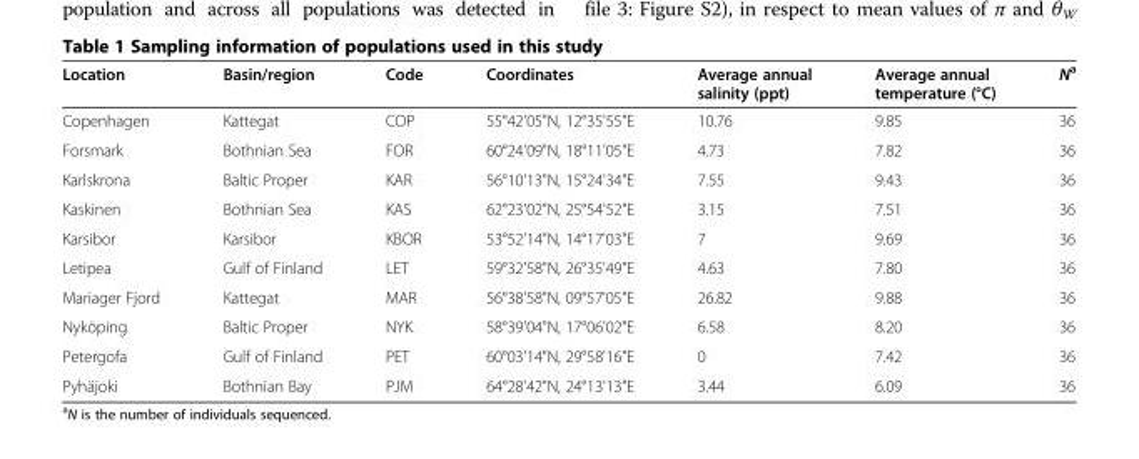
<table><thead><tr><td>Location</td><td>Basin/region</td><td>Code</td><td>Coordinates</td><td>Average annual salinity (ppt)</td><td>Average annual temperature (°C)</td><td>N<sup>a</sup></td></tr></thead><tbody><tr><td>Copenhagen</td><td>Kattegat</td><td>COP</td><td>55°42&#x27;05&quot;N, 12°35&#x27;55&quot;E</td><td>10.76</td><td>9.85</td><td>36</td></tr><tr><td>Forsmark</td><td>Bothnian Sea</td><td>FOR</td><td>60°24&#x27;09&quot;N, 18°11&#x27;05&quot;E</td><td>4.73</td><td>7.82</td><td>36</td></tr><tr><td>Karlskrona</td><td>Baltic Proper</td><td>KAR</td><td>56°10&#x27;13&quot;N, 15°24&#x27;34&quot;E</td><td>7.55</td><td>9.43</td><td>36</td></tr><tr><td>Kaskinen</td><td>Bothnian Sea</td><td>KAS</td><td>62°23&#x27;02&quot;N, 25°54&#x27;52&quot;E</td><td>3.15</td><td>7.51</td><td>36</td></tr><tr><td>Karsibor</td><td>Karsibor</td><td>KBOR</td><td>53°52&#x27;14&quot;N, 14°17&#x27;03&quot;E</td><td>7</td><td>9.69</td><td>36</td></tr><tr><td>Letipea</td><td>Gulf of Finland</td><td>LET</td><td>59°32&#x27;58&quot;N, 26°35&#x27;49&quot;E</td><td>4.63</td><td>7.80</td><td>36</td></tr><tr><td>Mariager Fjord</td><td>Kattegat</td><td>MAR</td><td>56°38&#x27;58&quot;N, 09°57&#x27;05&quot;E</td><td>26.82</td><td>9.88</td><td>36</td></tr><tr><td>Nyköping</td><td>Baltic Proper</td><td>NYK</td><td>58°39&#x27;04&quot;N, 17°06&#x27;02&quot;E</td><td>6.58</td><td>8.20</td><td>36</td></tr><tr><td>Petergofa</td><td>Gulf of Finland</td><td>PET</td><td>60°03&#x27;14&quot;N, 29°58&#x27;16&quot;E</td><td>0</td><td>7.42</td><td>36</td></tr><tr><td>Pyhäjoki</td><td>Bothnian Bay</td><td>PJM</td><td>64°28&#x27;42&quot;N, 24°13&#x27;13&quot;E</td><td>3.44</td><td>6.09</td><td>36</td></tr></tbody></table>